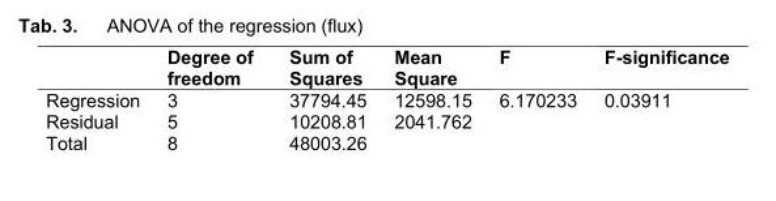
<table><thead><tr><td></td><td>Degree of freedom</td><td>Sum of Squares</td><td>Mean Square</td><td>F</td><td>F-significance</td></tr></thead><tbody><tr><td>Regression</td><td>3</td><td>37794.45</td><td>12598.15</td><td>6.170233</td><td>0.03911</td></tr><tr><td>Residual</td><td>5</td><td>10208.81</td><td>2041.762</td><td></td><td></td></tr><tr><td>Total</td><td>8</td><td>48003.26</td><td></td><td></td><td></td></tr></tbody></table>